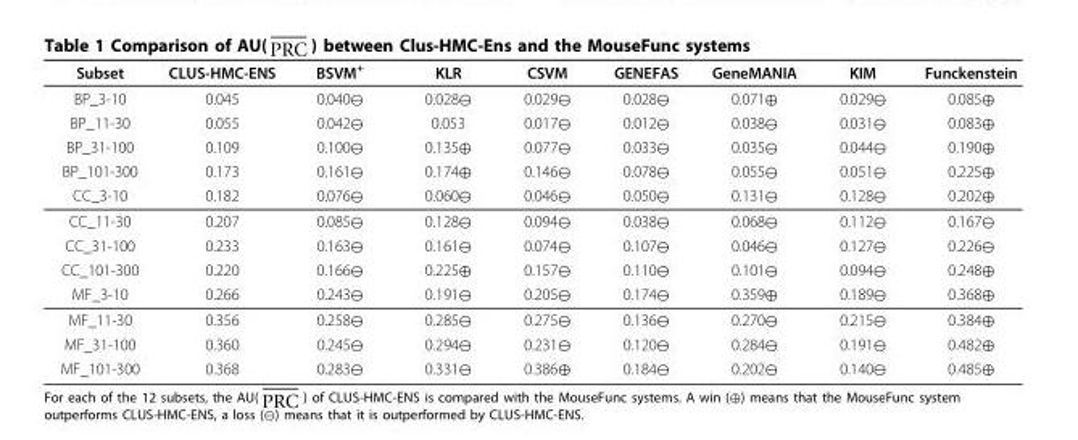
<table><thead><tr><td>Subset</td><td>CLUS-HMC-ENS</td><td>BSVM<sup>+</sup></td><td>KLR</td><td>CSVM</td><td>GENEFAS</td><td>GeneMANIA</td><td>KIM</td><td>Funckenstein</td></tr></thead><tbody><tr><td>BP_3-10</td><td>0.045</td><td>0.040⊖</td><td>0.028⊖</td><td>0.029⊖</td><td>0.028⊖</td><td>0.071⊕</td><td>0.029⊖</td><td>0.085⊕</td></tr><tr><td>BP_11-30</td><td>0.055</td><td>0.042⊖</td><td>0.053</td><td>0.017⊖</td><td>0.012⊖</td><td>0.038⊖</td><td>0.031⊖</td><td>0.083⊕</td></tr><tr><td>BP_31-100</td><td>0.109</td><td>0.100⊖</td><td>0.135⊕</td><td>0.077⊖</td><td>0.033⊖</td><td>0.035⊖</td><td>0.044⊖</td><td>0.190⊕</td></tr><tr><td>BP_101-300</td><td>0.173</td><td>0.161⊖</td><td>0.174⊕</td><td>0.146⊖</td><td>0.078⊖</td><td>0.055⊖</td><td>0.051⊖</td><td>0.225⊕</td></tr><tr><td>CC_3-10</td><td>0.182</td><td>0.076⊖</td><td>0.060⊖</td><td>0.046⊖</td><td>0.050⊖</td><td>0.131⊖</td><td>0.128⊖</td><td>0.202⊕</td></tr><tr><td>CC_11-30</td><td>0.207</td><td>0.085⊖</td><td>0.128⊖</td><td>0.094⊖</td><td>0.038⊖</td><td>0.068⊖</td><td>0.112⊖</td><td>0.167⊖</td></tr><tr><td>CC_31-100</td><td>0.233</td><td>0.163⊖</td><td>0.161⊖</td><td>0.074⊖</td><td>0.107⊖</td><td>0.046⊖</td><td>0.127⊖</td><td>0.226⊖</td></tr><tr><td>CC_101-300</td><td>0.220</td><td>0.166⊖</td><td>0.225⊕</td><td>0.157⊖</td><td>0.110⊖</td><td>0.101⊖</td><td>0.094⊖</td><td>0.248⊕</td></tr><tr><td>MF_3-10</td><td>0.266</td><td>0.243⊖</td><td>0.191⊖</td><td>0.205⊖</td><td>0.174⊖</td><td>0.359⊕</td><td>0.189⊖</td><td>0.368⊕</td></tr><tr><td>MF_11-30</td><td>0.356</td><td>0.258⊖</td><td>0.285⊖</td><td>0.275⊖</td><td>0.136⊖</td><td>0.270⊖</td><td>0.215⊖</td><td>0.384⊕</td></tr><tr><td>MF_31-100</td><td>0.360</td><td>0.245⊖</td><td>0.294⊖</td><td>0.231⊖</td><td>0.120⊖</td><td>0.284⊖</td><td>0.191⊖</td><td>0.482⊕</td></tr><tr><td>MF_101-300</td><td>0.368</td><td>0.283⊖</td><td>0.331⊖</td><td>0.386⊕</td><td>0.184⊖</td><td>0.202⊖</td><td>0.140⊖</td><td>0.485⊕</td></tr></tbody></table>